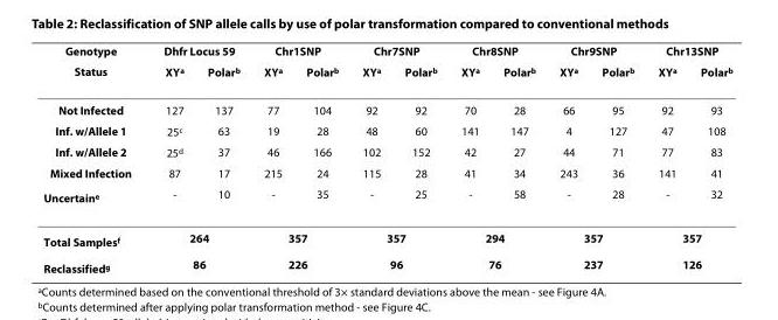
<table><thead><tr><td rowspan="2">Genotype Status</td><td colspan="2">Dhfr Locus 59</td><td colspan="2">Chr1SNP</td><td colspan="2">Chr7SNP</td><td colspan="2">Chr8SNP</td><td colspan="2">Chr9SNP</td><td colspan="2">Chr13SNP</td></tr><tr><td>XY<sup>a</sup></td><td>Polar<sup>b</sup></td><td>XY<sup>a</sup></td><td>Polar<sup>b</sup></td><td>XY<sup>a</sup></td><td>Polar<sup>b</sup></td><td>XY<sup>a</sup></td><td>Polar<sup>b</sup></td><td>XY<sup>a</sup></td><td>Polar<sup>b</sup></td><td>XY<sup>a</sup></td><td>Polar<sup>b</sup></td></tr></thead><tbody><tr><td>Not Infected</td><td>127</td><td>137</td><td>77</td><td>104</td><td>92</td><td>92</td><td>70</td><td>28</td><td>66</td><td>95</td><td>92</td><td>93</td></tr><tr><td>Inf. w/Allele 1</td><td>25<sup>c</sup></td><td>63</td><td>19</td><td>28</td><td>48</td><td>60</td><td>141</td><td>147</td><td>4</td><td>127</td><td>47</td><td>108</td></tr><tr><td>Inf. w/Allele 2</td><td>25<sup>d</sup></td><td>37</td><td>46</td><td>166</td><td>102</td><td>152</td><td>42</td><td>27</td><td>44</td><td>71</td><td>77</td><td>83</td></tr><tr><td>Mixed Infection</td><td>87</td><td>17</td><td>215</td><td>24</td><td>115</td><td>28</td><td>41</td><td>34</td><td>243</td><td>36</td><td>141</td><td>41</td></tr><tr><td>Uncertain<sup>e</sup></td><td>-</td><td>10</td><td>-</td><td>35</td><td>-</td><td>25</td><td>-</td><td>58</td><td>-</td><td>28</td><td>-</td><td>32</td></tr><tr><td>Total Samples<sup>f</sup></td><td colspan="2">264</td><td colspan="2">357</td><td colspan="2">357</td><td colspan="2">294</td><td colspan="2">357</td><td colspan="2">357</td></tr><tr><td>Reclassified<sup>g</sup></td><td colspan="2">86</td><td colspan="2">226</td><td colspan="2">96</td><td colspan="2">76</td><td colspan="2">237</td><td colspan="2">126</td></tr></tbody></table>